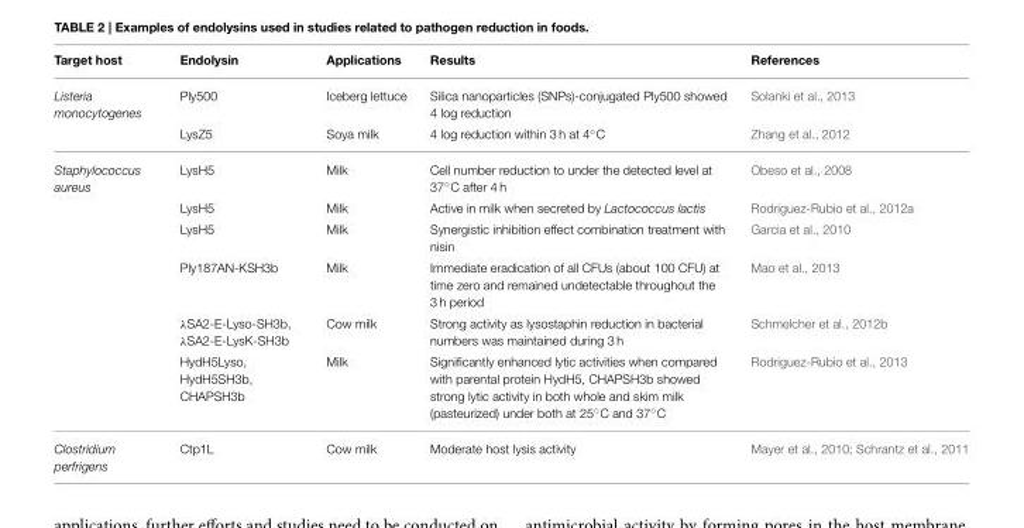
<table><thead><tr><td>Target host</td><td>Endolysin</td><td>Applications</td><td>Results</td><td>References</td></tr></thead><tbody><tr><td rowspan="2">Listeria monocytogenes</td><td>Ply500</td><td>Iceberg lettuce</td><td>Silica nanoparticles (SNPs)-conjugated Ply500 showed 4 log reduction</td><td>Solanki et al., 2013</td></tr><tr><td>LysZ5</td><td>Soya milk</td><td>4 log reduction within 3 h at 4◦C</td><td>Zhang et al., 2012</td></tr><tr><td rowspan="6">Staphylococcus aureus</td><td>LysH5</td><td>Milk</td><td>Cell number reduction to under the detected level at 37◦C after 4 h</td><td>Obeso et al., 2008</td></tr><tr><td>LysH5</td><td>Milk</td><td>Active in milk when secreted by Lactococcus lactis</td><td>Rodriguez-Rubio et al., 2012a</td></tr><tr><td>LysH5</td><td>Milk</td><td>Synergistic inhibition effect combination treatment with nisin</td><td>Garcia et al., 2010</td></tr><tr><td>Ply187AN-KSH3b</td><td>Milk</td><td>Immediate eradication of all CFUs (about 100 CFU) at time zero and remained undetectable throughout the 3 h period</td><td>Mao et al., 2013</td></tr><tr><td>λSA2-E-Lyso-SH3b, λSA2-E-LysK-SH3b</td><td>Cow milk</td><td>Strong activity as lysostaphin reduction in bacterial numbers was maintained during 3 h</td><td>Schmelcher et al., 2012b</td></tr><tr><td>HydH5Lyso, HydH5SH3b, CHAPSH3b</td><td>Milk</td><td>Significantly enhanced lytic activities when compared with parental protein HydH5, CHAPSH3b showed strong lytic activity in both whole and skim milk (pasteurized) under both at 25◦C and 37◦C</td><td>Rodriguez-Rubio et al., 2013</td></tr><tr><td>Clostridium perfrigens</td><td>Ctp1L</td><td>Cow milk</td><td>Moderate host lysis activity</td><td>Mayer et al., 2010; Schrantz et al., 2011</td></tr></tbody></table>